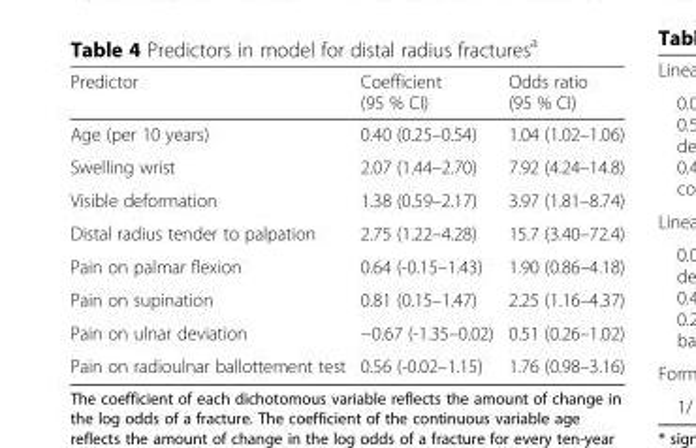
<table><thead><tr><td>Predictor</td><td>Coefficient (95 % CI)</td><td>Odds ratio (95 % CI)</td></tr></thead><tbody><tr><td>Age (per 10 years)</td><td>0.40 (0.25–0.54)</td><td>1.04 (1.02–1.06)</td></tr><tr><td>Swelling wrist</td><td>2.07 (1.44–2.70)</td><td>7.92 (4.24–14.8)</td></tr><tr><td>Visible deformation</td><td>1.38 (0.59–2.17)</td><td>3.97 (1.81–8.74)</td></tr><tr><td>Distal radius tender to palpation</td><td>2.75 (1.22–4.28)</td><td>15.7 (3.40–72.4)</td></tr><tr><td>Pain on palmar flexion</td><td>0.64 (-0.15–1.43)</td><td>1.90 (0.86–4.18)</td></tr><tr><td>Pain on supination</td><td>0.81 (0.15–1.47)</td><td>2.25 (1.16–4.37)</td></tr><tr><td>Pain on ulnar deviation</td><td>−0.67 (-1.35–0.02)</td><td>0.51 (0.26–1.02)</td></tr><tr><td>Pain on radioulnar ballottement test</td><td>0.56 (-0.02–1.15)</td><td>1.76 (0.98–3.16)</td></tr></tbody></table>